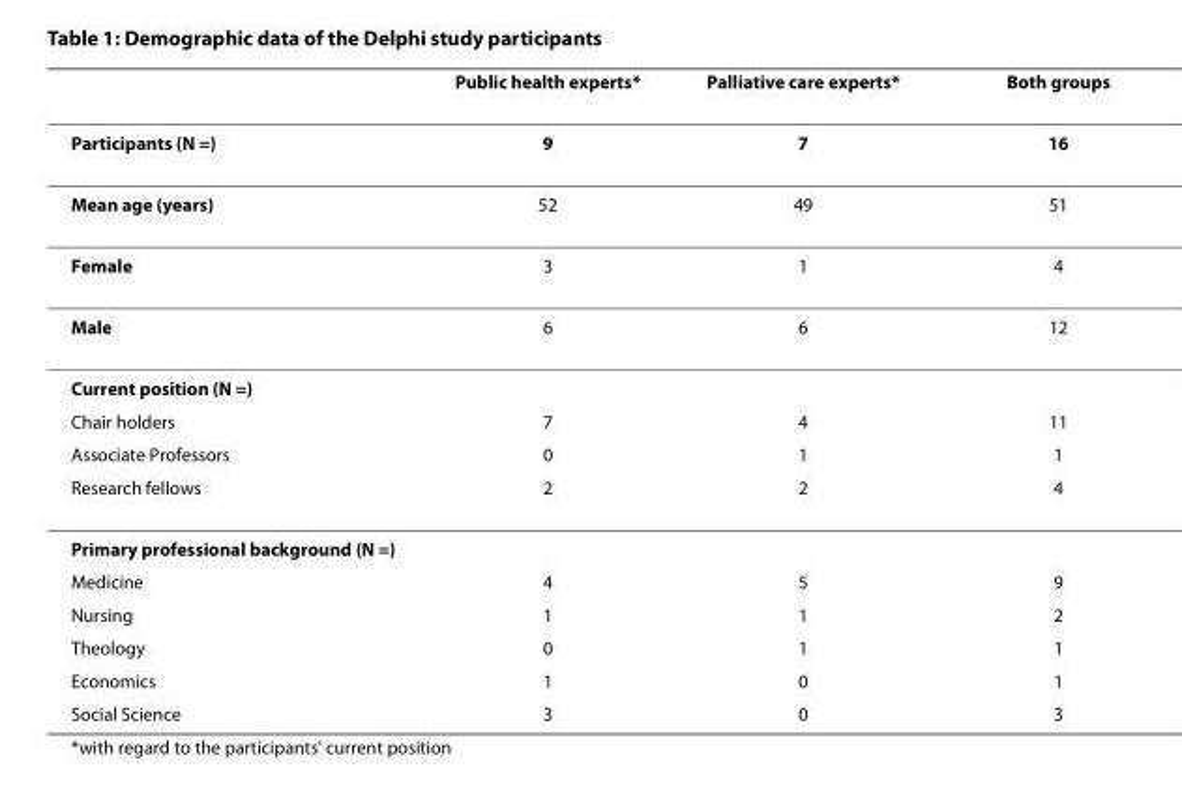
<table><thead><tr><td></td><td>Public health experts*</td><td>Palliative care experts*</td><td>Both groups</td></tr></thead><tbody><tr><td>Participants (N =)</td><td>9</td><td>7</td><td>16</td></tr><tr><td>Mean age (years)</td><td>52</td><td>49</td><td>51</td></tr><tr><td>Female</td><td>3</td><td>1</td><td>4</td></tr><tr><td>Male</td><td>6</td><td>6</td><td>12</td></tr><tr><td colspan="4">Current position (N =)</td></tr><tr><td>Chair holders</td><td>7</td><td>4</td><td>11</td></tr><tr><td>Associate Professors</td><td>0</td><td>1</td><td>1</td></tr><tr><td>Research fellows</td><td>2</td><td>2</td><td>4</td></tr><tr><td colspan="4">Primary professional background (N =)</td></tr><tr><td>Medicine</td><td>4</td><td>5</td><td>9</td></tr><tr><td>Nursing</td><td>1</td><td>1</td><td>2</td></tr><tr><td>Theology</td><td>0</td><td>1</td><td>1</td></tr><tr><td>Economics</td><td>1</td><td>0</td><td>1</td></tr><tr><td>Social Science</td><td>3</td><td>0</td><td>3</td></tr></tbody></table>